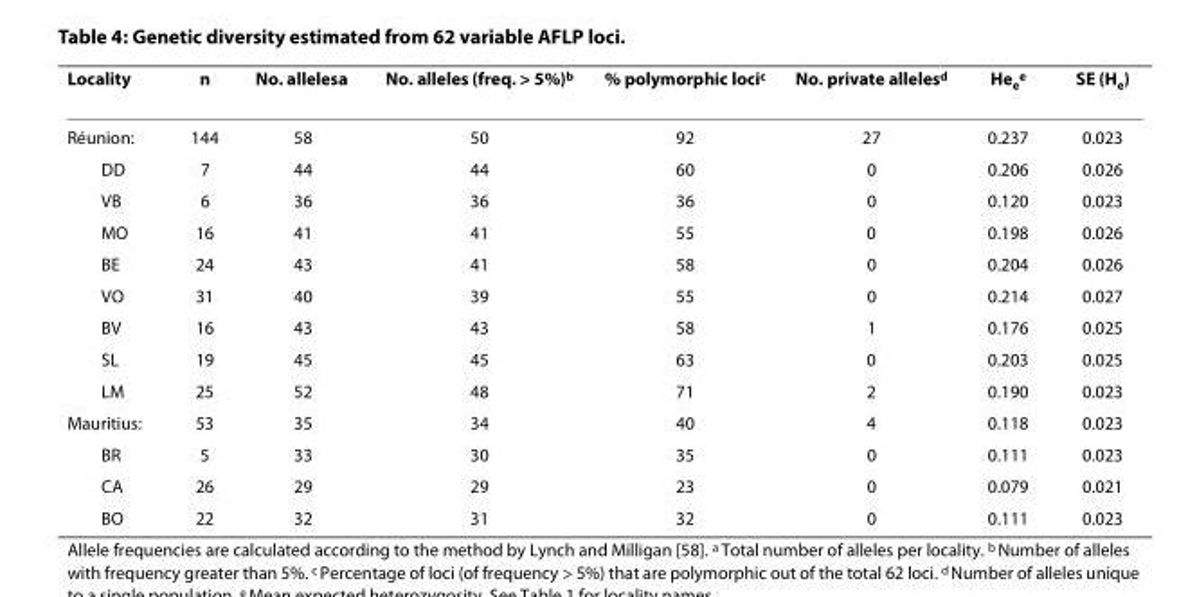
<table><thead><tr><td>Locality</td><td>n</td><td>No. alleles<sup>a</sup></td><td>No. alleles (freq. &gt; 5%)<sup>b</sup></td><td>% polymorphic loci<sup>c</sup></td><td>No. private alleles<sup>d</sup></td><td>He<sub>e</sub><sup>e</sup></td><td>SE (H<sub>e</sub>)</td></tr></thead><tbody><tr><td>Réunion:</td><td>144</td><td>58</td><td>50</td><td>92</td><td>27</td><td>0.237</td><td>0.023</td></tr><tr><td>DD</td><td>7</td><td>44</td><td>44</td><td>60</td><td>0</td><td>0.206</td><td>0.026</td></tr><tr><td>VB</td><td>6</td><td>36</td><td>36</td><td>36</td><td>0</td><td>0.120</td><td>0.023</td></tr><tr><td>MO</td><td>16</td><td>41</td><td>41</td><td>55</td><td>0</td><td>0.198</td><td>0.026</td></tr><tr><td>BE</td><td>24</td><td>43</td><td>41</td><td>58</td><td>0</td><td>0.204</td><td>0.026</td></tr><tr><td>VO</td><td>31</td><td>40</td><td>39</td><td>55</td><td>0</td><td>0.214</td><td>0.027</td></tr><tr><td>BV</td><td>16</td><td>43</td><td>43</td><td>58</td><td>1</td><td>0.176</td><td>0.025</td></tr><tr><td>SL</td><td>19</td><td>45</td><td>45</td><td>63</td><td>0</td><td>0.203</td><td>0.025</td></tr><tr><td>LM</td><td>25</td><td>52</td><td>48</td><td>71</td><td>2</td><td>0.190</td><td>0.023</td></tr><tr><td>Mauritius:</td><td>53</td><td>35</td><td>34</td><td>40</td><td>4</td><td>0.118</td><td>0.023</td></tr><tr><td>BR</td><td>5</td><td>33</td><td>30</td><td>35</td><td>0</td><td>0.111</td><td>0.023</td></tr><tr><td>CA</td><td>26</td><td>29</td><td>29</td><td>23</td><td>0</td><td>0.079</td><td>0.021</td></tr><tr><td>BO</td><td>22</td><td>32</td><td>31</td><td>32</td><td>0</td><td>0.111</td><td>0.023</td></tr></tbody></table>